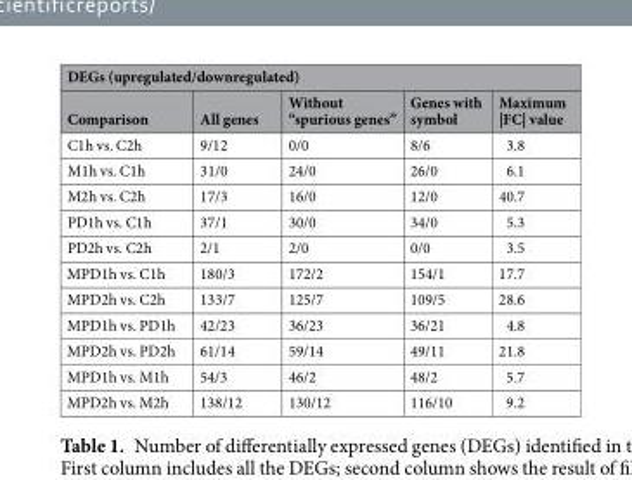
<table><thead><tr><td colspan="5">DEGs (upregulated/downregulated)</td></tr><tr><td>Comparison</td><td>All genes</td><td>Without “spurious genes”</td><td>Genes with symbol</td><td>Maximum |FC| value</td></tr></thead><tbody><tr><td>C1h vs. C2h</td><td>9/12</td><td>0/0</td><td>8/6</td><td>3.8</td></tr><tr><td>M1h vs. C1h</td><td>31/0</td><td>24/0</td><td>26/0</td><td>6.1</td></tr><tr><td>M2h vs. C2h</td><td>17/3</td><td>16/0</td><td>12/0</td><td>40.7</td></tr><tr><td>PD1h vs. C1h</td><td>37/1</td><td>30/0</td><td>34/0</td><td>5.3</td></tr><tr><td>PD2h vs. C2h</td><td>2/1</td><td>2/0</td><td>0/0</td><td>3.5</td></tr><tr><td>MPD1h vs. C1h</td><td>180/3</td><td>172/2</td><td>154/1</td><td>17.7</td></tr><tr><td>MPD2h vs. C2h</td><td>133/7</td><td>125/7</td><td>109/5</td><td>28.6</td></tr><tr><td>MPD1h vs. PD1h</td><td>42/23</td><td>36/23</td><td>36/21</td><td>4.8</td></tr><tr><td>MPD2h vs. PD2h</td><td>61/14</td><td>59/14</td><td>49/11</td><td>21.8</td></tr><tr><td>MPD1h vs. M1h</td><td>54/3</td><td>46/2</td><td>48/2</td><td>5.7</td></tr><tr><td>MPD2h vs. M2h</td><td>138/12</td><td>130/12</td><td>116/10</td><td>9.2</td></tr></tbody></table>